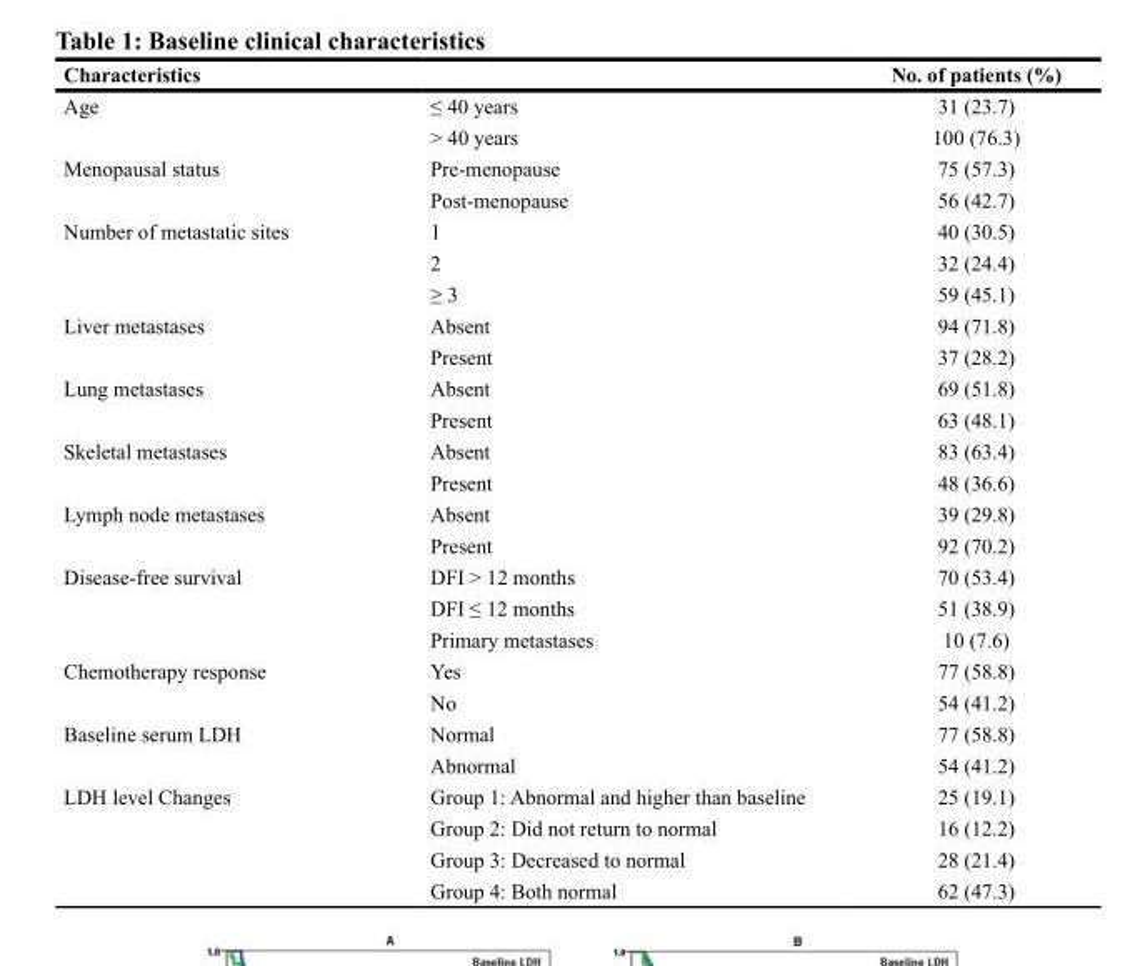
<table><thead><tr><td>Characteristics</td><td></td><td>No. of patients (%)</td></tr></thead><tbody><tr><td rowspan="2">Age</td><td>≤ 40 years</td><td>31 (23.7)</td></tr><tr><td>&gt; 40 years</td><td>100 (76.3)</td></tr><tr><td rowspan="2">Menopausal status</td><td>Pre-menopause</td><td>75 (57.3)</td></tr><tr><td>Post-menopause</td><td>56 (42.7)</td></tr><tr><td rowspan="3">Number of metastatic sites</td><td>1</td><td>40 (30.5)</td></tr><tr><td>2</td><td>32 (24.4)</td></tr><tr><td>≥ 3</td><td>59 (45.1)</td></tr><tr><td rowspan="2">Liver metastases</td><td>Absent</td><td>94 (71.8)</td></tr><tr><td>Present</td><td>37 (28.2)</td></tr><tr><td rowspan="2">Lung metastases</td><td>Absent</td><td>69 (51.8)</td></tr><tr><td>Present</td><td>63 (48.1)</td></tr><tr><td rowspan="2">Skeletal metastases</td><td>Absent</td><td>83 (63.4)</td></tr><tr><td>Present</td><td>48 (36.6)</td></tr><tr><td rowspan="2">Lymph node metastases</td><td>Absent</td><td>39 (29.8)</td></tr><tr><td>Present</td><td>92 (70.2)</td></tr><tr><td rowspan="3">Disease-free survival</td><td>DFI &gt; 12 months</td><td>70 (53.4)</td></tr><tr><td>DFI ≤ 12 months</td><td>51 (38.9)</td></tr><tr><td>Primary metastases</td><td>10 (7.6)</td></tr><tr><td rowspan="2">Chemotherapy response</td><td>Yes</td><td>77 (58.8)</td></tr><tr><td>No</td><td>54 (41.2)</td></tr><tr><td rowspan="2">Baseline serum LDH</td><td>Normal</td><td>77 (58.8)</td></tr><tr><td>Abnormal</td><td>54 (41.2)</td></tr><tr><td rowspan="4">LDH level Changes</td><td>Group 1: Abnormal and higher than baseline</td><td>25 (19.1)</td></tr><tr><td>Group 2: Did not return to normal</td><td>16 (12.2)</td></tr><tr><td>Group 3: Decreased to normal</td><td>28 (21.4)</td></tr><tr><td>Group 4: Both normal</td><td>62 (47.3)</td></tr></tbody></table>